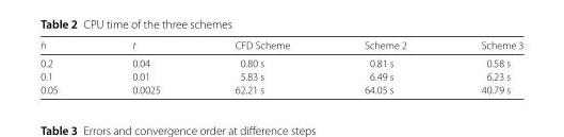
<table><thead><tr><td>h</td><td>t</td><td>CFD Scheme</td><td>Scheme 2</td><td>Scheme 3</td></tr></thead><tbody><tr><td>0.2</td><td>0.04</td><td>0.80 s</td><td>0.81 s</td><td>0.58 s</td></tr><tr><td>0.1</td><td>0.01</td><td>5.83 s</td><td>6.49 s</td><td>6.23 s</td></tr><tr><td>0.05</td><td>0.0025</td><td>62.21 s</td><td>64.05 s</td><td>40.79 s</td></tr></tbody></table>